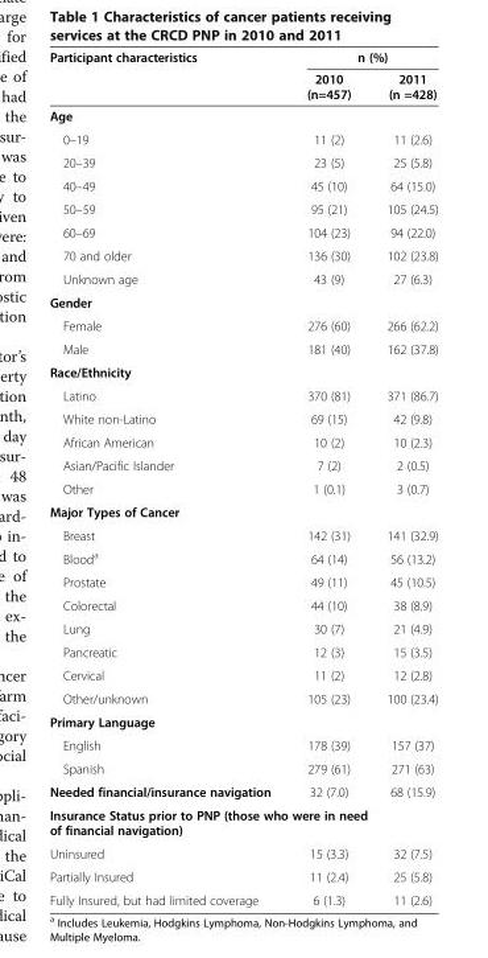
<table><thead><tr><td rowspan="2">Participant characteristics</td><td colspan="2">n (%)</td></tr><tr><td>2010 (n=457)</td><td>2011 (n =428)</td></tr></thead><tbody><tr><td colspan="3">Age</td></tr><tr><td>0–19</td><td>11 (2)</td><td>11 (2.6)</td></tr><tr><td>20–39</td><td>23 (5)</td><td>25 (5.8)</td></tr><tr><td>40–49</td><td>45 (10)</td><td>64 (15.0)</td></tr><tr><td>50–59</td><td>95 (21)</td><td>105 (24.5)</td></tr><tr><td>60–69</td><td>104 (23)</td><td>94 (22.0)</td></tr><tr><td>70 and older</td><td>136 (30)</td><td>102 (23.8)</td></tr><tr><td>Unknown age</td><td>43 (9)</td><td>27 (6.3)</td></tr><tr><td colspan="3">Gender</td></tr><tr><td>Female</td><td>276 (60)</td><td>266 (62.2)</td></tr><tr><td>Male</td><td>181 (40)</td><td>162 (37.8)</td></tr><tr><td colspan="3">Race/Ethnicity</td></tr><tr><td>Latino</td><td>370 (81)</td><td>371 (86.7)</td></tr><tr><td>White non-Latino</td><td>69 (15)</td><td>42 (9.8)</td></tr><tr><td>African American</td><td>10 (2)</td><td>10 (2.3)</td></tr><tr><td>Asian/Pacific Islander</td><td>7 (2)</td><td>2 (0.5)</td></tr><tr><td>Other</td><td>1 (0.1)</td><td>3 (0.7)</td></tr><tr><td colspan="3">Major Types of Cancer</td></tr><tr><td>Breast</td><td>142 (31)</td><td>141 (32.9)</td></tr><tr><td>Blood<sup>a</sup></td><td>64 (14)</td><td>56 (13.2)</td></tr><tr><td>Prostate</td><td>49 (11)</td><td>45 (10.5)</td></tr><tr><td>Colorectal</td><td>44 (10)</td><td>38 (8.9)</td></tr><tr><td>Lung</td><td>30 (7)</td><td>21 (4.9)</td></tr><tr><td>Pancreatic</td><td>12 (3)</td><td>15 (3.5)</td></tr><tr><td>Cervical</td><td>11 (2)</td><td>12 (2.8)</td></tr><tr><td>Other/unknown</td><td>105 (23)</td><td>100 (23.4)</td></tr><tr><td colspan="3">Primary Language</td></tr><tr><td>English</td><td>178 (39)</td><td>157 (37)</td></tr><tr><td>Spanish</td><td>279 (61)</td><td>271 (63)</td></tr><tr><td>Needed financial/insurance navigation</td><td>32 (7.0)</td><td>68 (15.9)</td></tr><tr><td colspan="3">Insurance Status prior to PNP (those who were in need of financial navigation)</td></tr><tr><td>Uninsured</td><td>15 (3.3)</td><td>32 (7.5)</td></tr><tr><td>Partially Insured</td><td>11 (2.4)</td><td>25 (5.8)</td></tr><tr><td>Fully Insured, but had limited coverage</td><td>6 (1.3)</td><td>11 (2.6)</td></tr></tbody></table>